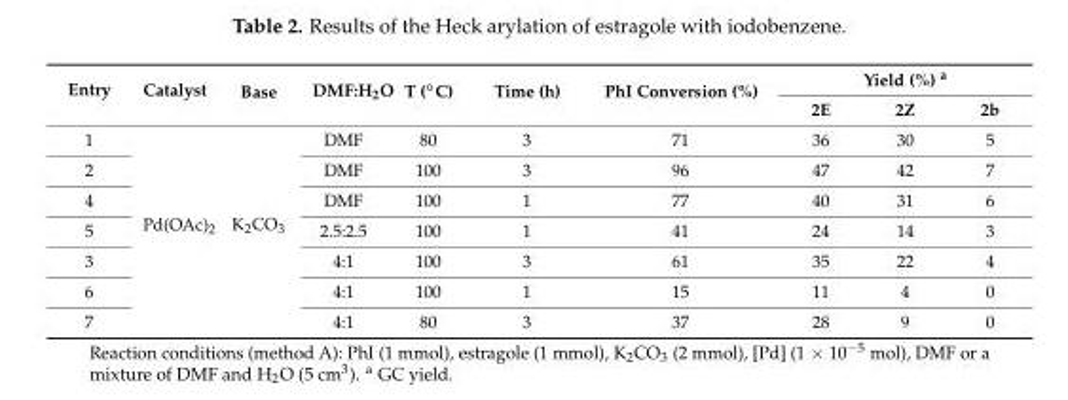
<table><thead><tr><td rowspan="2">Entry</td><td rowspan="2">Catalyst</td><td rowspan="2">Base</td><td rowspan="2">DMF:H2O</td><td rowspan="2">T (◦C)</td><td rowspan="2">Time (h)</td><td rowspan="2">PhI Conversion (%)</td><td colspan="3">Yield (%) a</td></tr><tr><td>2E</td><td>2Z</td><td>2b</td></tr></thead><tbody><tr><td>1</td><td rowspan="7">Pd(OAc)2</td><td rowspan="7">K2CO3</td><td>DMF</td><td>80</td><td>3</td><td>71</td><td>36</td><td>30</td><td>5</td></tr><tr><td>2</td><td>DMF</td><td>100</td><td>3</td><td>96</td><td>47</td><td>42</td><td>7</td></tr><tr><td>4</td><td>DMF</td><td>100</td><td>1</td><td>77</td><td>40</td><td>31</td><td>6</td></tr><tr><td>5</td><td>2.5:2.5</td><td>100</td><td>1</td><td>41</td><td>24</td><td>14</td><td>3</td></tr><tr><td>3</td><td>4:1</td><td>100</td><td>3</td><td>61</td><td>35</td><td>22</td><td>4</td></tr><tr><td>6</td><td>4:1</td><td>100</td><td>1</td><td>15</td><td>11</td><td>4</td><td>0</td></tr><tr><td>7</td><td>4:1</td><td>80</td><td>3</td><td>37</td><td>28</td><td>9</td><td>0</td></tr></tbody></table>